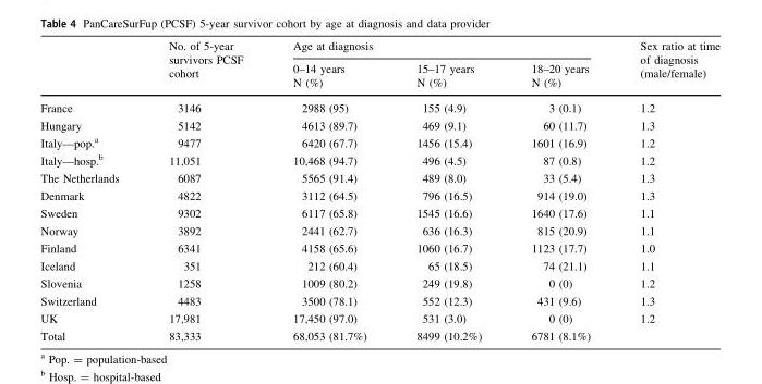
<table><thead><tr><td rowspan="2"></td><td rowspan="2">No. of 5-year survivors PCSF cohort</td><td colspan="3">Age at diagnosis</td><td rowspan="2">Sex ratio at time of diagnosis (male/female)</td></tr><tr><td>0–14 years N (%)</td><td>15–17 years N (%)</td><td>18–20 years N (%)</td></tr></thead><tbody><tr><td>France</td><td>3146</td><td>2988 (95)</td><td>155 (4.9)</td><td>3 (0.1)</td><td>1.2</td></tr><tr><td>Hungary</td><td>5142</td><td>4613 (89.7)</td><td>469 (9.1)</td><td>60 (11.7)</td><td>1.3</td></tr><tr><td>Italy—pop.<sup>a</sup></td><td>9477</td><td>6420 (67.7)</td><td>1456 (15.4)</td><td>1601 (16.9)</td><td>1.2</td></tr><tr><td>Italy—hosp.<sup>b</sup></td><td>11,051</td><td>10,468 (94.7)</td><td>496 (4.5)</td><td>87 (0.8)</td><td>1.2</td></tr><tr><td>The Netherlands</td><td>6087</td><td>5565 (91.4)</td><td>489 (8.0)</td><td>33 (5.4)</td><td>1.3</td></tr><tr><td>Denmark</td><td>4822</td><td>3112 (64.5)</td><td>796 (16.5)</td><td>914 (19.0)</td><td>1.3</td></tr><tr><td>Sweden</td><td>9302</td><td>6117 (65.8)</td><td>1545 (16.6)</td><td>1640 (17.6)</td><td>1.1</td></tr><tr><td>Norway</td><td>3892</td><td>2441 (62.7)</td><td>636 (16.3)</td><td>815 (20.9)</td><td>1.1</td></tr><tr><td>Finland</td><td>6341</td><td>4158 (65.6)</td><td>1060 (16.7)</td><td>1123 (17.7)</td><td>1.0</td></tr><tr><td>Iceland</td><td>351</td><td>212 (60.4)</td><td>65 (18.5)</td><td>74 (21.1)</td><td>1.1</td></tr><tr><td>Slovenia</td><td>1258</td><td>1009 (80.2)</td><td>249 (19.8)</td><td>0 (0)</td><td>1.2</td></tr><tr><td>Switzerland</td><td>4483</td><td>3500 (78.1)</td><td>552 (12.3)</td><td>431 (9.6)</td><td>1.3</td></tr><tr><td>UK</td><td>17,981</td><td>17,450 (97.0)</td><td>531 (3.0)</td><td>0 (0)</td><td>1.2</td></tr><tr><td>Total</td><td>83,333</td><td>68,053 (81.7%)</td><td>8499 (10.2%)</td><td>6781 (8.1%)</td><td></td></tr></tbody></table>